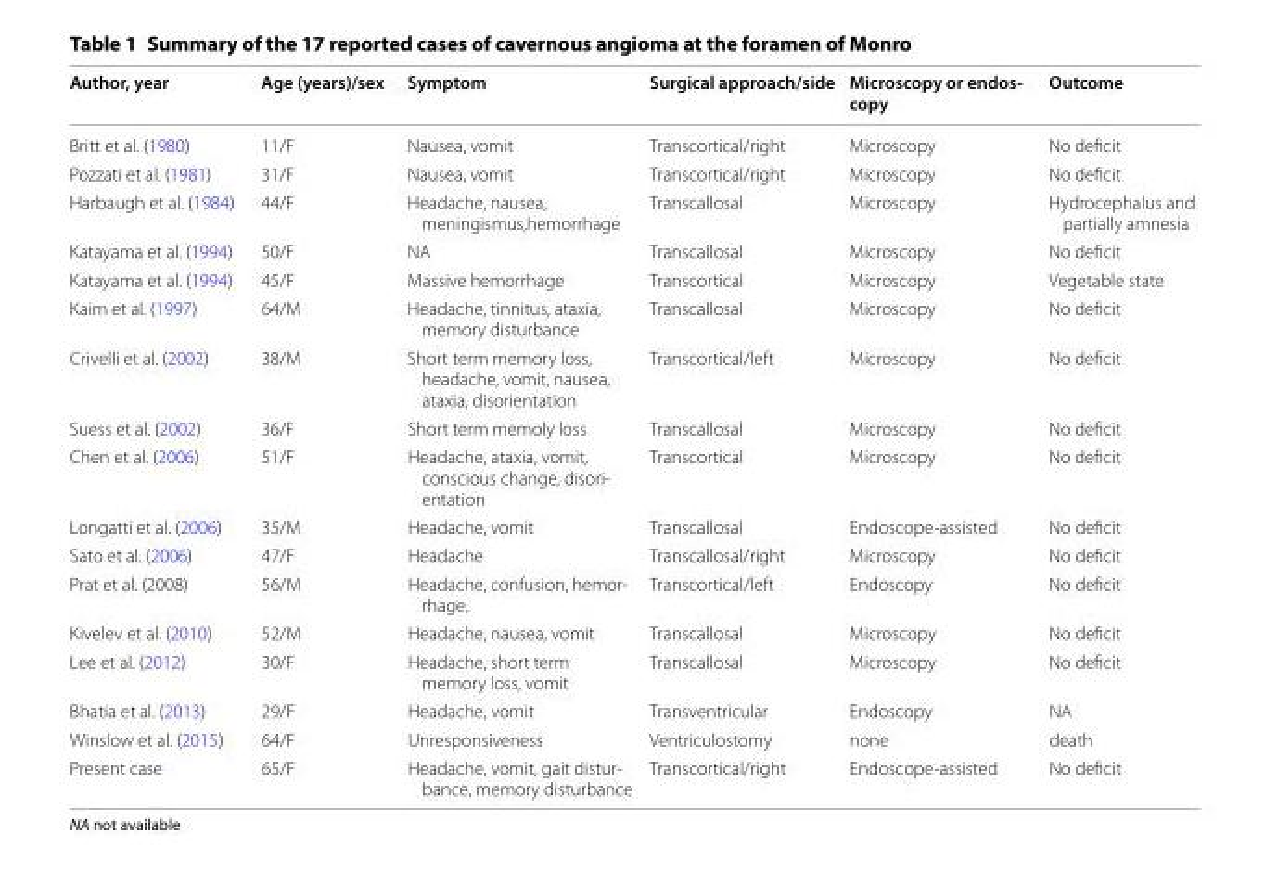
<table><thead><tr><td>Author, year</td><td>Age (years)/sex</td><td>Symptom</td><td>Surgical approach/side</td><td>Microscopy or endos‑ copy</td><td>Outcome</td></tr></thead><tbody><tr><td>Britt et al. (1980)</td><td>11/F</td><td>Nausea, vomit</td><td>Transcortical/right</td><td>Microscopy</td><td>No deficit</td></tr><tr><td>Pozzati et al. (1981)</td><td>31/F</td><td>Nausea, vomit</td><td>Transcortical/right</td><td>Microscopy</td><td>No deficit</td></tr><tr><td>Harbaugh et al. (1984)</td><td>44/F</td><td>Headache, nausea, meningismus,hemorrhage</td><td>Transcallosal</td><td>Microscopy</td><td>Hydrocephalus and partially amnesia</td></tr><tr><td>Katayama et al. (1994)</td><td>50/F</td><td>NA</td><td>Transcallosal</td><td>Microscopy</td><td>No deficit</td></tr><tr><td>Katayama et al. (1994)</td><td>45/F</td><td>Massive hemorrhage</td><td>Transcortical</td><td>Microscopy</td><td>Vegetable state</td></tr><tr><td>Kaim et al. (1997)</td><td>64/M</td><td>Headache, tinnitus, ataxia, memory disturbance</td><td>Transcallosal</td><td>Microscopy</td><td>No deficit</td></tr><tr><td>Crivelli et al. (2002)</td><td>38/M</td><td>Short term memory loss, headache, vomit, nausea, ataxia, disorientation</td><td>Transcortical/left</td><td>Microscopy</td><td>No deficit</td></tr><tr><td>Suess et al. (2002)</td><td>36/F</td><td>Short term memoly loss</td><td>Transcallosal</td><td>Microscopy</td><td>No deficit</td></tr><tr><td>Chen et al. (2006)</td><td>51/F</td><td>Headache, ataxia, vomit, conscious change, disori- entation</td><td>Transcortical</td><td>Microscopy</td><td>No deficit</td></tr><tr><td>Longatti et al. (2006)</td><td>35/M</td><td>Headache, vomit</td><td>Transcallosal</td><td>Endoscope-assisted</td><td>No deficit</td></tr><tr><td>Sato et al. (2006)</td><td>47/F</td><td>Headache</td><td>Transcallosal/right</td><td>Microscopy</td><td>No deficit</td></tr><tr><td>Prat et al. (2008)</td><td>56/M</td><td>Headache, confusion, hemor- rhage,</td><td>Transcortical/left</td><td>Endoscopy</td><td>No deficit</td></tr><tr><td>Kivelev et al. (2010)</td><td>52/M</td><td>Headache, nausea, vomit</td><td>Transcallosal</td><td>Microscopy</td><td>No deficit</td></tr><tr><td>Lee et al. (2012)</td><td>30/F</td><td>Headache, short term memory loss, vomit</td><td>Transcallosal</td><td>Microscopy</td><td>No deficit</td></tr><tr><td>Bhatia et al. (2013)</td><td>29/F</td><td>Headache, vomit</td><td>Transventricular</td><td>Endoscopy</td><td>NA</td></tr><tr><td>Winslow et al. (2015)</td><td>64/F</td><td>Unresponsiveness</td><td>Ventriculostomy</td><td>none</td><td>death</td></tr><tr><td>Present case</td><td>65/F</td><td>Headache, vomit, gait distur- bance, memory disturbance</td><td>Transcortical/right</td><td>Endoscope-assisted</td><td>No deficit</td></tr></tbody></table>